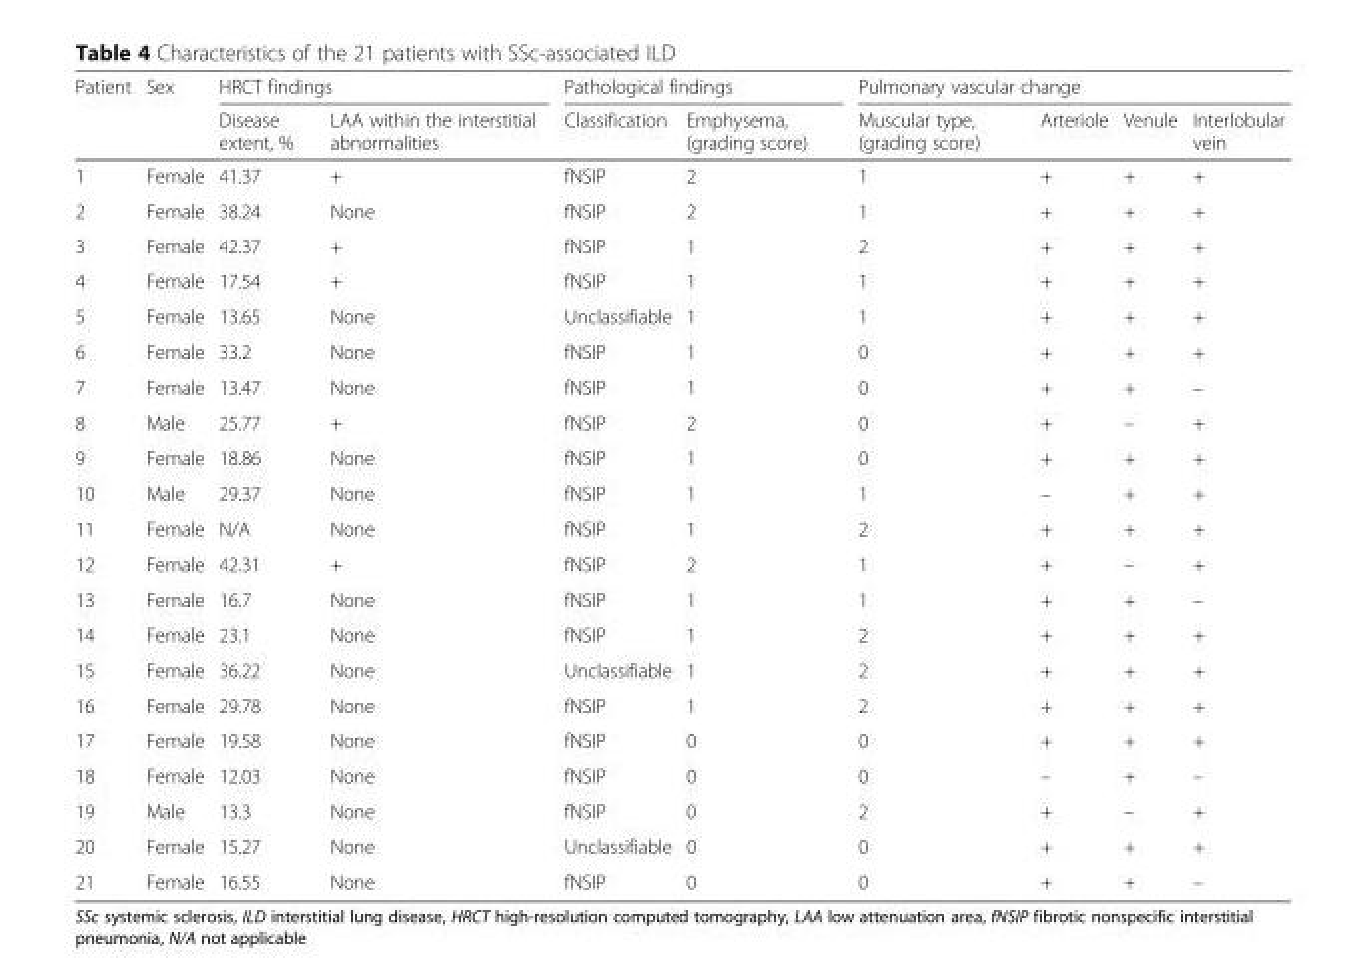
<table><thead><tr><td rowspan="2">Patient</td><td rowspan="2">Sex</td><td colspan="2">HRCT findings</td><td colspan="2">Pathological findings</td><td colspan="4">Pulmonary vascular change</td></tr><tr><td>Disease extent, %</td><td>LAA within the interstitial abnormalities</td><td>Classification</td><td>Emphysema, (grading score)</td><td>Muscular type, (grading score)</td><td>Arteriole</td><td>Venule</td><td>Interlobular vein</td></tr></thead><tbody><tr><td>1</td><td>Female</td><td>41.37</td><td>+</td><td>fNSIP</td><td>2</td><td>1</td><td>+</td><td>+</td><td>+</td></tr><tr><td>2</td><td>Female</td><td>38.24</td><td>None</td><td>fNSIP</td><td>2</td><td>1</td><td>+</td><td>+</td><td>+</td></tr><tr><td>3</td><td>Female</td><td>42.37</td><td>+</td><td>fNSIP</td><td>1</td><td>2</td><td>+</td><td>+</td><td>+</td></tr><tr><td>4</td><td>Female</td><td>17.54</td><td>+</td><td>fNSIP</td><td>1</td><td>1</td><td>+</td><td>+</td><td>+</td></tr><tr><td>5</td><td>Female</td><td>13.65</td><td>None</td><td>Unclassifiable</td><td>1</td><td>1</td><td>+</td><td>+</td><td>+</td></tr><tr><td>6</td><td>Female</td><td>33.2</td><td>None</td><td>fNSIP</td><td>1</td><td>0</td><td>+</td><td>+</td><td>+</td></tr><tr><td>7</td><td>Female</td><td>13.47</td><td>None</td><td>fNSIP</td><td>1</td><td>0</td><td>+</td><td>+</td><td>–</td></tr><tr><td>8</td><td>Male</td><td>25.77</td><td>+</td><td>fNSIP</td><td>2</td><td>0</td><td>+</td><td>–</td><td>+</td></tr><tr><td>9</td><td>Female</td><td>18.86</td><td>None</td><td>fNSIP</td><td>1</td><td>0</td><td>+</td><td>+</td><td>+</td></tr><tr><td>10</td><td>Male</td><td>29.37</td><td>None</td><td>fNSIP</td><td>1</td><td>1</td><td>–</td><td>+</td><td>+</td></tr><tr><td>11</td><td>Female</td><td>N/A</td><td>None</td><td>fNSIP</td><td>1</td><td>2</td><td>+</td><td>+</td><td>+</td></tr><tr><td>12</td><td>Female</td><td>42.31</td><td>+</td><td>fNSIP</td><td>2</td><td>1</td><td>+</td><td>–</td><td>+</td></tr><tr><td>13</td><td>Female</td><td>16.7</td><td>None</td><td>fNSIP</td><td>1</td><td>1</td><td>+</td><td>+</td><td>–</td></tr><tr><td>14</td><td>Female</td><td>23.1</td><td>None</td><td>fNSIP</td><td>1</td><td>2</td><td>+</td><td>+</td><td>+</td></tr><tr><td>15</td><td>Female</td><td>36.22</td><td>None</td><td>Unclassifiable</td><td>1</td><td>2</td><td>+</td><td>+</td><td>+</td></tr><tr><td>16</td><td>Female</td><td>29.78</td><td>None</td><td>fNSIP</td><td>1</td><td>2</td><td>+</td><td>+</td><td>+</td></tr><tr><td>17</td><td>Female</td><td>19.58</td><td>None</td><td>fNSIP</td><td>0</td><td>0</td><td>+</td><td>+</td><td>+</td></tr><tr><td>18</td><td>Female</td><td>12.03</td><td>None</td><td>fNSIP</td><td>0</td><td>0</td><td>–</td><td>+</td><td>–</td></tr><tr><td>19</td><td>Male</td><td>13.3</td><td>None</td><td>fNSIP</td><td>0</td><td>2</td><td>+</td><td>–</td><td>+</td></tr><tr><td>20</td><td>Female</td><td>15.27</td><td>None</td><td>Unclassifiable</td><td>0</td><td>0</td><td>+</td><td>+</td><td>+</td></tr><tr><td>21</td><td>Female</td><td>16.55</td><td>None</td><td>fNSIP</td><td>0</td><td>0</td><td>+</td><td>+</td><td>–</td></tr></tbody></table>